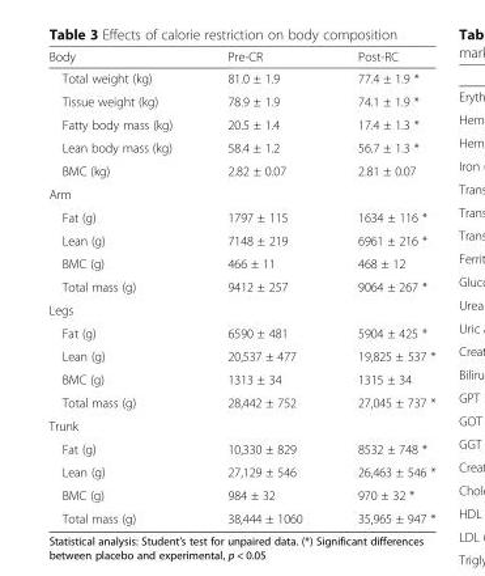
<table><thead><tr><td>Body</td><td>Pre-CR</td><td>Post-RC</td></tr></thead><tbody><tr><td>Total weight (kg)</td><td>81.0 ± 1.9</td><td>77.4 ± 1.9 *</td></tr><tr><td>Tissue weight (kg)</td><td>78.9 ± 1.9</td><td>74.1 ± 1.9 *</td></tr><tr><td>Fatty body mass (kg)</td><td>20.5 ± 1.4</td><td>17.4 ± 1.3 *</td></tr><tr><td>Lean body mass (kg)</td><td>58.4 ± 1.2</td><td>56.7 ± 1.3 *</td></tr><tr><td>BMC (kg)</td><td>2.82 ± 0.07</td><td>2.81 ± 0.07</td></tr><tr><td colspan="3">Arm</td></tr><tr><td>Fat (g)</td><td>1797 ± 115</td><td>1634 ± 116 *</td></tr><tr><td>Lean (g)</td><td>7148 ± 219</td><td>6961 ± 216 *</td></tr><tr><td>BMC (g)</td><td>466 ± 11</td><td>468 ± 12</td></tr><tr><td>Total mass (g)</td><td>9412 ± 257</td><td>9064 ± 267 *</td></tr><tr><td colspan="3">Legs</td></tr><tr><td>Fat (g)</td><td>6590 ± 481</td><td>5904 ± 425 *</td></tr><tr><td>Lean (g)</td><td>20,537 ± 477</td><td>19,825 ± 537 *</td></tr><tr><td>BMC (g)</td><td>1313 ± 34</td><td>1315 ± 34</td></tr><tr><td>Total mass (g)</td><td>28,442 ± 752</td><td>27,045 ± 737 *</td></tr><tr><td colspan="3">Trunk</td></tr><tr><td>Fat (g)</td><td>10,330 ± 829</td><td>8532 ± 748 *</td></tr><tr><td>Lean (g)</td><td>27,129 ± 546</td><td>26,463 ± 546 *</td></tr><tr><td>BMC (g)</td><td>984 ± 32</td><td>970 ± 32 *</td></tr><tr><td>Total mass (g)</td><td>38,444 ± 1060</td><td>35,965 ± 947 *</td></tr></tbody></table>